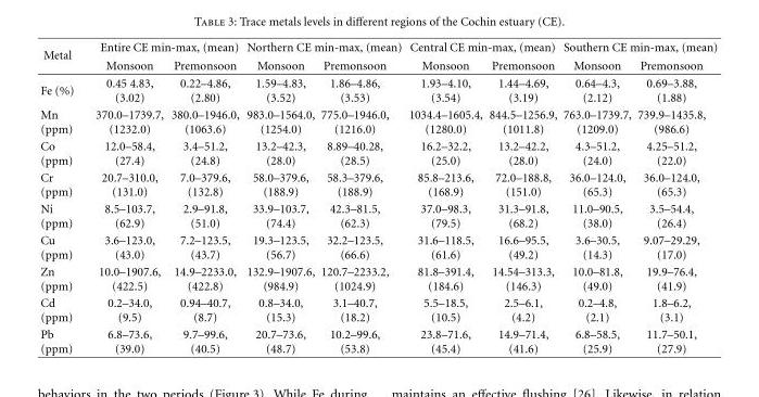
<table><thead><tr><td rowspan="2">Metal</td><td colspan="2">Entire CE min-max, (mean)</td><td colspan="2">Northern CE min-max, (mean)</td><td colspan="2">Central CE min-max, (mean)</td><td colspan="2">Southern CE min-max, (mean)</td></tr><tr><td>Monsoon</td><td>Premonsoon</td><td>Monsoon</td><td>Premonsoon</td><td>Monsoon</td><td>Premonsoon</td><td>Monsoon</td><td>Premonsoon</td></tr></thead><tbody><tr><td>Fe (%)</td><td>0.45 4.83, (3.02)</td><td>0.22–4.86, (2.80)</td><td>1.59–4.83, (3.52)</td><td>1.86–4.86, (3.53)</td><td>1.93–4.10, (3.54)</td><td>1.44–4.69, (3.19)</td><td>0.64–4.3, (2.12)</td><td>0.69–3.88, (1.88)</td></tr><tr><td>Mn (ppm)</td><td>370.0–1739.7, (1232.0)</td><td>380.0–1946.0, (1063.6)</td><td>983.0–1564.0, (1254.0)</td><td>775.0–1946.0, (1216.0)</td><td>1034.4–1605.4, (1280.0)</td><td>844.5–1256.9, (1011.8)</td><td>763.0–1739.7, (1209.0)</td><td>739.9–1435.8, (986.6)</td></tr><tr><td>Co (ppm)</td><td>12.0–58.4, (27.4)</td><td>3.4–51.2, (24.8)</td><td>13.2–42.3, (28.0)</td><td>8.89–40.28, (28.5)</td><td>16.2–32.2, (25.0)</td><td>13.2–42.2, (28.0)</td><td>4.3–51.2, (24.0)</td><td>4.25–51.2, (22.0)</td></tr><tr><td>Cr (ppm)</td><td>20.7–310.0, (131.0)</td><td>7.0–379.6, (132.8)</td><td>58.0–379.6, (188.9)</td><td>58.3–379.6, (188.9)</td><td>85.8–213.6, (168.9)</td><td>72.0–188.8, (151.0)</td><td>36.0–124.0, (65.3)</td><td>36.0–124.0, (65.3)</td></tr><tr><td>Ni (ppm)</td><td>8.5–103.7, (62.9)</td><td>2.9–91.8, (51.0)</td><td>33.9–103.7, (74.4)</td><td>42.3–81.5, (62.3)</td><td>37.0–98.3, (79.5)</td><td>31.3–91.8, (68.2)</td><td>11.0–90.5, (38.0)</td><td>3.5–54.4, (26.4)</td></tr><tr><td>Cu (ppm)</td><td>3.6–123.0, (43.0)</td><td>7.2–123.5, (43.7)</td><td>19.3–123.5, (56.7)</td><td>32.2–123.5, (66.6)</td><td>31.6–118.5, (61.6)</td><td>16.6–95.5, (49.2)</td><td>3.6–30.5, (14.3)</td><td>9.07–29.29, (17.0)</td></tr><tr><td>Zn (ppm)</td><td>10.0–1907.6, (422.5)</td><td>14.9–2233.0, (422.8)</td><td>132.9–1907.6, (984.9)</td><td>120.7–2233.2, (1024.9)</td><td>81.8–391.4, (184.6)</td><td>14.54–313.3, (146.3)</td><td>10.0–81.8, (49.0)</td><td>19.9–76.4, (41.9)</td></tr><tr><td>Cd (ppm)</td><td>0.2–34.0, (9.5)</td><td>0.94–40.7, (8.7)</td><td>0.8–34.0, (15.3)</td><td>3.1–40.7, (18.2)</td><td>5.5–18.5, (10.5)</td><td>2.5–6.1, (4.2)</td><td>0.2–4.8, (2.1)</td><td>1.8–6.2, (3.1)</td></tr><tr><td>Pb (ppm)</td><td>6.8–73.6, (39.0)</td><td>9.7–99.6, (40.5)</td><td>20.7–73.6, (48.7)</td><td>10.2–99.6, (53.8)</td><td>23.8–71.6, (45.4)</td><td>14.9–71.4, (41.6)</td><td>6.8–58.5, (25.9)</td><td>11.7–50.1, (27.9)</td></tr></tbody></table>